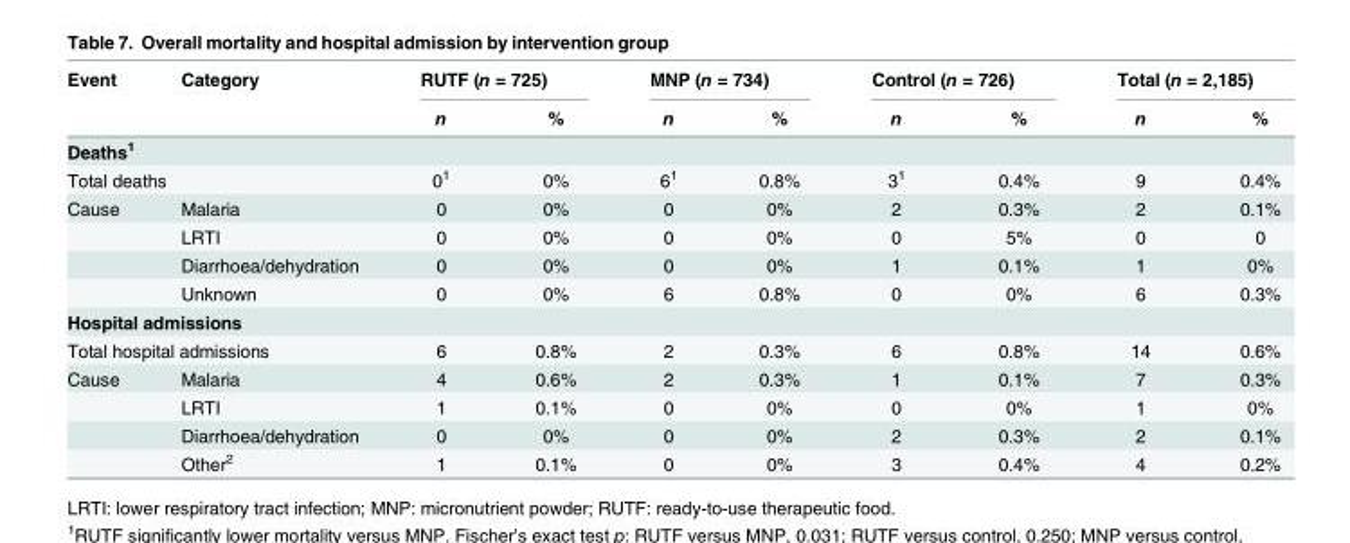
<table><thead><tr><td rowspan="2">Event</td><td rowspan="2">Category</td><td colspan="2">RUTF (n = 725)</td><td colspan="2">MNP (n = 734)</td><td colspan="2">Control (n = 726)</td><td colspan="2">Total (n = 2,185)</td></tr><tr><td>n</td><td>%</td><td>n</td><td>%</td><td>n</td><td>%</td><td>n</td><td>%</td></tr></thead><tbody><tr><td colspan="10">Deaths<sup>1</sup></td></tr><tr><td colspan="2">Total deaths</td><td>0<sup>1</sup></td><td>0%</td><td>6<sup>1</sup></td><td>0.8%</td><td>3<sup>1</sup></td><td>0.4%</td><td>9</td><td>0.4%</td></tr><tr><td rowspan="4">Cause</td><td>Malaria</td><td>0</td><td>0%</td><td>0</td><td>0%</td><td>2</td><td>0.3%</td><td>2</td><td>0.1%</td></tr><tr><td>LRTI</td><td>0</td><td>0%</td><td>0</td><td>0%</td><td>0</td><td>5%</td><td>0</td><td>0</td></tr><tr><td>Diarrhoea/dehydration</td><td>0</td><td>0%</td><td>0</td><td>0%</td><td>1</td><td>0.1%</td><td>1</td><td>0%</td></tr><tr><td>Unknown</td><td>0</td><td>0%</td><td>6</td><td>0.8%</td><td>0</td><td>0%</td><td>6</td><td>0.3%</td></tr><tr><td colspan="10">Hospital admissions</td></tr><tr><td colspan="2">Total hospital admissions</td><td>6</td><td>0.8%</td><td>2</td><td>0.3%</td><td>6</td><td>0.8%</td><td>14</td><td>0.6%</td></tr><tr><td rowspan="4">Cause</td><td>Malaria</td><td>4</td><td>0.6%</td><td>2</td><td>0.3%</td><td>1</td><td>0.1%</td><td>7</td><td>0.3%</td></tr><tr><td>LRTI</td><td>1</td><td>0.1%</td><td>0</td><td>0%</td><td>0</td><td>0%</td><td>1</td><td>0%</td></tr><tr><td>Diarrhoea/dehydration</td><td>0</td><td>0%</td><td>0</td><td>0%</td><td>2</td><td>0.3%</td><td>2</td><td>0.1%</td></tr><tr><td>Other<sup>2</sup></td><td>1</td><td>0.1%</td><td>0</td><td>0%</td><td>3</td><td>0.4%</td><td>4</td><td>0.2%</td></tr></tbody></table>